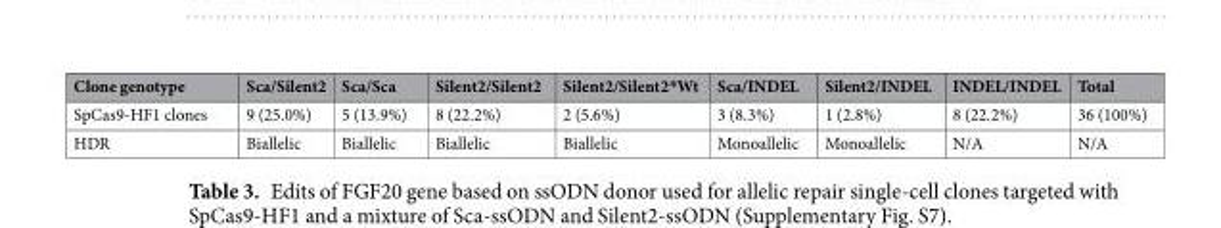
<table><thead><tr><td>Clone genotype</td><td>Sca/Silent2</td><td>Sca/Sca</td><td>Silent2/Silent2</td><td>Silent2/Silent2*Wt</td><td>Sca/INDEL</td><td>Silent2/INDEL</td><td>INDEL/INDEL</td><td>Total</td></tr></thead><tbody><tr><td>SpCas9-HF1 clones</td><td>9 (25.0%)</td><td>5 (13.9%)</td><td>8 (22.2%)</td><td>2 (5.6%)</td><td>3 (8.3%)</td><td>1 (2.8%)</td><td>8 (22.2%)</td><td>36 (100%)</td></tr><tr><td>HDR</td><td>Biallelic</td><td>Biallelic</td><td>Biallelic</td><td>Biallelic</td><td>Monoallelic</td><td>Monoallelic</td><td>N/A</td><td>N/A</td></tr></tbody></table>